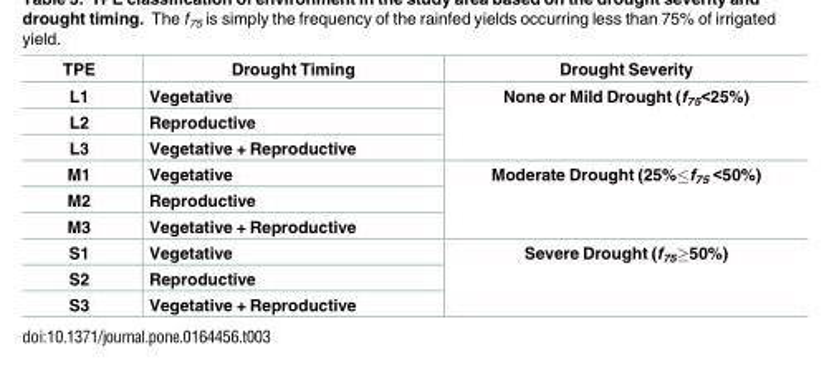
<table><thead><tr><td>TPE</td><td>Drought Timing</td><td>Drought Severity</td></tr></thead><tbody><tr><td>L1</td><td>Vegetative</td><td rowspan="3">None or Mild Drought (f<sub>75</sub>&lt;25%)</td></tr><tr><td>L2</td><td>Reproductive</td></tr><tr><td>L3</td><td>Vegetative + Reproductive</td></tr><tr><td>M1</td><td>Vegetative</td><td rowspan="3">Moderate Drought (25%≤f<sub>75</sub> &lt;50%)</td></tr><tr><td>M2</td><td>Reproductive</td></tr><tr><td>M3</td><td>Vegetative + Reproductive</td></tr><tr><td>S1</td><td>Vegetative</td><td rowspan="3">Severe Drought (f<sub>75</sub>≥50%)</td></tr><tr><td>S2</td><td>Reproductive</td></tr><tr><td>S3</td><td>Vegetative + Reproductive</td></tr></tbody></table>